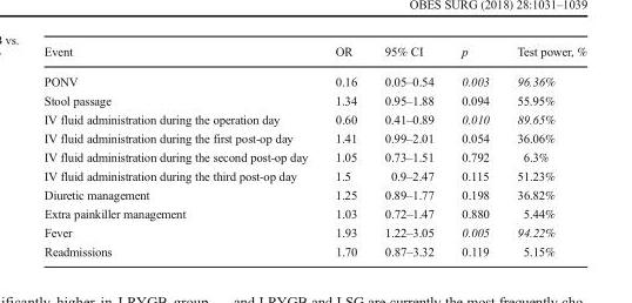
<table><thead><tr><td>Event</td><td>OR</td><td>95% CI</td><td>p</td><td>Test power, %</td></tr></thead><tbody><tr><td>PONV</td><td>0.16</td><td>0.05–0.54</td><td>0.003</td><td>96.36%</td></tr><tr><td>Stool passage</td><td>1.34</td><td>0.95–1.88</td><td>0.094</td><td>55.95%</td></tr><tr><td>IV fluid administration during the operation day</td><td>0.60</td><td>0.41–0.89</td><td>0.010</td><td>89.65%</td></tr><tr><td>IV fluid administration during the first post-op day</td><td>1.41</td><td>0.99–2.01</td><td>0.054</td><td>36.06%</td></tr><tr><td>IV fluid administration during the second post-op day</td><td>1.05</td><td>0.73–1.51</td><td>0.792</td><td>6.3%</td></tr><tr><td>IV fluid administration during the third post-op day</td><td>1.5</td><td>0.9–2.47</td><td>0.115</td><td>51.23%</td></tr><tr><td>Diuretic management</td><td>1.25</td><td>0.89–1.77</td><td>0.198</td><td>36.82%</td></tr><tr><td>Extra painkiller management</td><td>1.03</td><td>0.72–1.47</td><td>0.880</td><td>5.44%</td></tr><tr><td>Fever</td><td>1.93</td><td>1.22–3.05</td><td>0.005</td><td>94.22%</td></tr><tr><td>Readmissions</td><td>1.70</td><td>0.87–3.32</td><td>0.119</td><td>5.15%</td></tr></tbody></table>